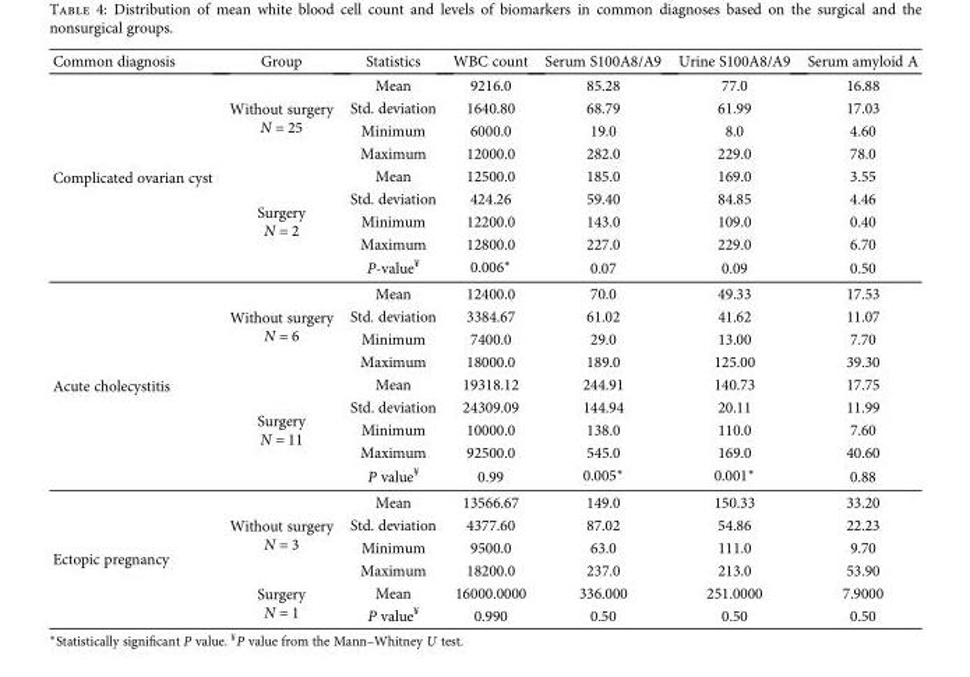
<table><thead><tr><td>Common diagnosis</td><td>Group</td><td>Statistics</td><td>WBC count</td><td>Serum S100A8/A9</td><td>Urine S100A8/A9</td><td>Serum amyloid A</td></tr></thead><tbody><tr><td rowspan="9">Complicated ovarian cyst</td><td rowspan="4">Without surgery N = 25</td><td>Mean</td><td>9216.0</td><td>85.28</td><td>77.0</td><td>16.88</td></tr><tr><td>Std. deviation</td><td>1640.80</td><td>68.79</td><td>61.99</td><td>17.03</td></tr><tr><td>Minimum</td><td>6000.0</td><td>19.0</td><td>8.0</td><td>4.60</td></tr><tr><td>Maximum</td><td>12000.0</td><td>282.0</td><td>229.0</td><td>78.0</td></tr><tr><td rowspan="5">Surgery N = 2</td><td>Mean</td><td>12500.0</td><td>185.0</td><td>169.0</td><td>3.55</td></tr><tr><td>Std. deviation</td><td>424.26</td><td>59.40</td><td>84.85</td><td>4.46</td></tr><tr><td>Minimum</td><td>12200.0</td><td>143.0</td><td>109.0</td><td>0.40</td></tr><tr><td>Maximum</td><td>12800.0</td><td>227.0</td><td>229.0</td><td>6.70</td></tr><tr><td>P-value<sup>¥</sup></td><td>0.006∗</td><td>0.07</td><td>0.09</td><td>0.50</td></tr><tr><td rowspan="9">Acute cholecystitis</td><td rowspan="4">Without surgery N = 6</td><td>Mean</td><td>12400.0</td><td>70.0</td><td>49.33</td><td>17.53</td></tr><tr><td>Std. deviation</td><td>3384.67</td><td>61.02</td><td>41.62</td><td>11.07</td></tr><tr><td>Minimum</td><td>7400.0</td><td>29.0</td><td>13.00</td><td>7.70</td></tr><tr><td>Maximum</td><td>18000.0</td><td>189.0</td><td>125.00</td><td>39.30</td></tr><tr><td rowspan="5">Surgery N = 11</td><td>Mean</td><td>19318.12</td><td>244.91</td><td>140.73</td><td>17.75</td></tr><tr><td>Std. deviation</td><td>24309.09</td><td>144.94</td><td>20.11</td><td>11.99</td></tr><tr><td>Minimum</td><td>10000.0</td><td>138.0</td><td>110.0</td><td>7.60</td></tr><tr><td>Maximum</td><td>92500.0</td><td>545.0</td><td>169.0</td><td>40.60</td></tr><tr><td>P value<sup>¥</sup></td><td>0.99</td><td>0.005∗</td><td>0.001∗</td><td>0.88</td></tr><tr><td rowspan="6">Ectopic pregnancy</td><td rowspan="4">Without surgery N = 3</td><td>Mean</td><td>13566.67</td><td>149.0</td><td>150.33</td><td>33.20</td></tr><tr><td>Std. deviation</td><td>4377.60</td><td>87.02</td><td>54.86</td><td>22.23</td></tr><tr><td>Minimum</td><td>9500.0</td><td>63.0</td><td>111.0</td><td>9.70</td></tr><tr><td>Maximum</td><td>18200.0</td><td>237.0</td><td>213.0</td><td>53.90</td></tr><tr><td rowspan="2">Surgery N = 1</td><td>Mean</td><td>16000.0000</td><td>336.000</td><td>251.0000</td><td>7.9000</td></tr><tr><td>P value<sup>¥</sup></td><td>0.990</td><td>0.50</td><td>0.50</td><td>0.50</td></tr></tbody></table>